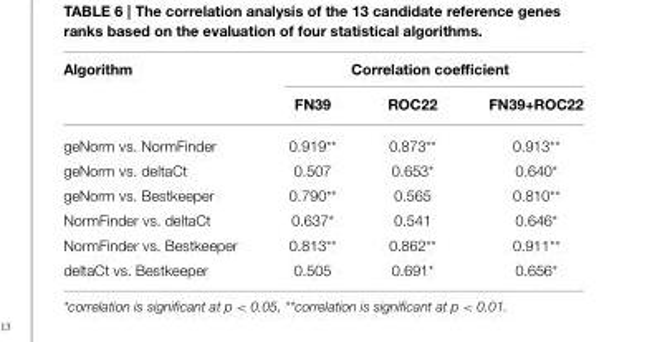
<table><thead><tr><td rowspan="2">Algorithm</td><td colspan="3">Correlation coefficient</td></tr><tr><td>FN39</td><td>ROC22</td><td>FN39+ROC22</td></tr></thead><tbody><tr><td>geNorm vs. NormFinder</td><td>0.919**</td><td>0.873**</td><td>0.913**</td></tr><tr><td>geNorm vs. deltaCt</td><td>0.507</td><td>0.653*</td><td>0.640*</td></tr><tr><td>geNorm vs. Bestkeeper</td><td>0.790**</td><td>0.565</td><td>0.810**</td></tr><tr><td>NormFinder vs. deltaCt</td><td>0.637*</td><td>0.541</td><td>0.646*</td></tr><tr><td>NormFinder vs. Bestkeeper</td><td>0.813**</td><td>0.862**</td><td>0.911**</td></tr><tr><td>deltaCt vs. Bestkeeper</td><td>0.505</td><td>0.691*</td><td>0.656*</td></tr></tbody></table>